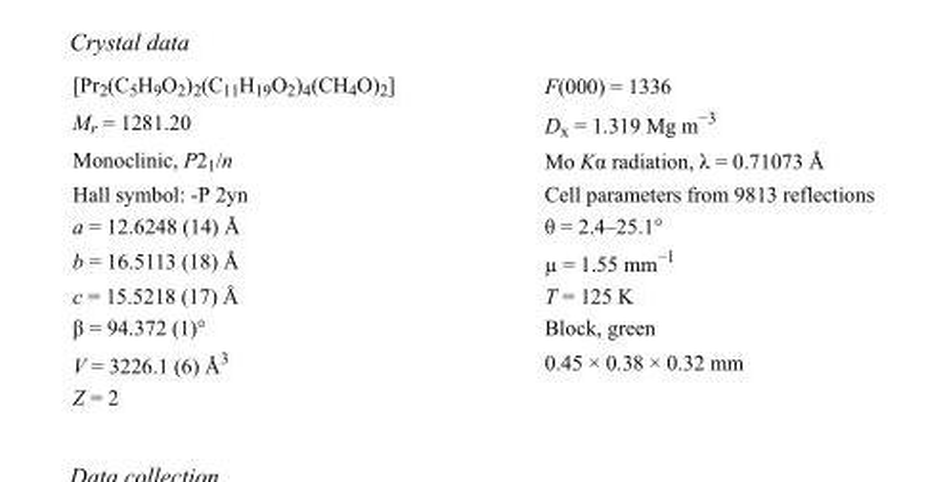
<table><tbody><tr><td>[Pr<sub>2</sub>(C<sub>5</sub>H<sub>9</sub>O<sub>2</sub>)<sub>2</sub>(C<sub>11</sub>H<sub>19</sub>O<sub>2</sub>)<sub>4</sub>(CH<sub>4</sub>O)<sub>2</sub>]</td><td>F(000) = 1336</td></tr><tr><td>M<sub>r</sub> = 1281.20</td><td>D<sub>x</sub> = 1.319 Mg m<sup>−3</sup></td></tr><tr><td>Monoclinic, P2<sub>1</sub>/n</td><td>Mo Kα radiation, λ = 0.71073 Å</td></tr><tr><td>Hall symbol: -P 2yn</td><td>Cell parameters from 9813 reflections</td></tr><tr><td>a = 12.6248 (14) Å</td><td>θ = 2.4–25.1°</td></tr><tr><td>b = 16.5113 (18) Å</td><td>µ = 1.55 mm<sup>−1</sup></td></tr><tr><td>c = 15.5218 (17) Å</td><td>T = 125 K</td></tr><tr><td>β = 94.372 (1)°</td><td>Block, green</td></tr><tr><td>V = 3226.1 (6) Å<sup>3</sup></td><td>0.45 × 0.38 × 0.32 mm</td></tr><tr><td>Z = 2</td><td></td></tr></tbody></table>